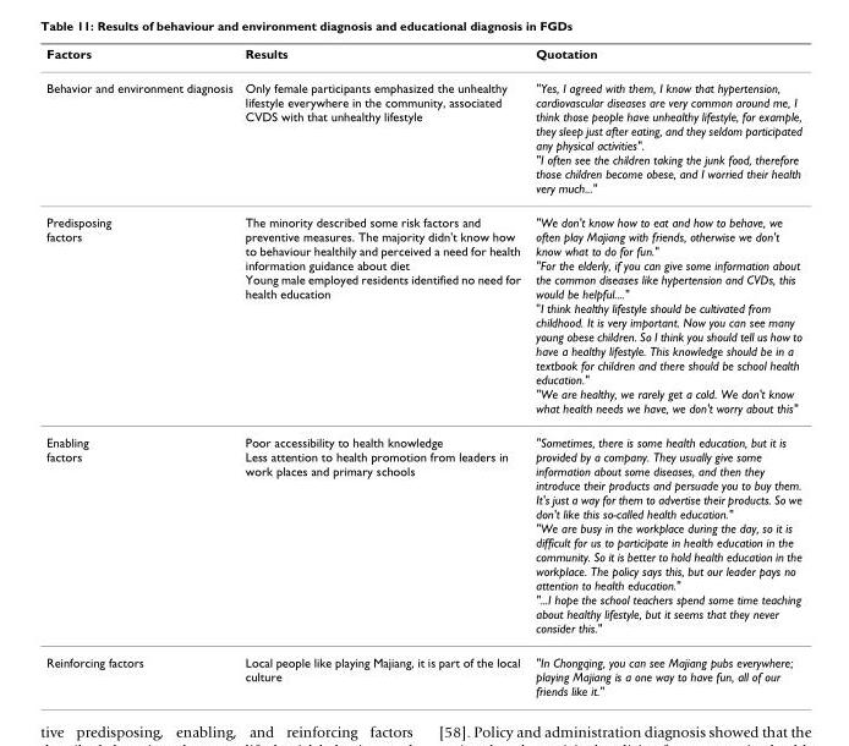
<table><thead><tr><td>Factors</td><td>Results</td><td>Quotation</td></tr></thead><tbody><tr><td>Behavior and environment diagnosis</td><td>Only female participants emphasized the unhealthy lifestyle everywhere in the community, associated CVDS with that unhealthy lifestyle</td><td>&quot;Yes, I agreed with them, I know that hypertension, cardiovascular diseases are very common around me, I think those people have unhealthy lifestyle, for example, they sleep just after eating, and they seldom participated any physical activities&quot;. &quot;I often see the children taking the junk food, therefore those children become obese, and I worried their health very much...&quot;</td></tr><tr><td>Predisposing factors</td><td>The minority described some risk factors and preventive measures. The majority didn&#x27;t know how to behaviour healthily and perceived a need for health information guidance about diet Young male employed residents identified no need for health education</td><td>&quot;We don&#x27;t know how to eat and how to behave, we often play Majiang with friends, otherwise we don&#x27;t know what to do for fun.&quot; &quot;For the elderly, if you can give some information about the common diseases like hypertension and CVDs, this would be helpful....&quot; &quot;I think healthy lifestyle should be cultivated from childhood. It is very important. Now you can see many young obese children. So I think you should tell us how to have a healthy lifestyle. This knowledge should be in a textbook for children and there should be school health education.&quot; &quot;We are healthy, we rarely get a cold. We don&#x27;t know what health needs we have, we don&#x27;t worry about this&quot;</td></tr><tr><td>Enabling factors</td><td>Poor accessibility to health knowledge Less attention to health promotion from leaders in work places and primary schools</td><td>&quot;Sometimes, there is some health education, but it is provided by a company. They usually give some information about some diseases, and then they introduce their products and persuade you to buy them. It&#x27;s just a way for them to advertise their products. So we don&#x27;t like this so-called health education.&quot; &quot;We are busy in the workplace during the day, so it is difficult for us to participate in health education in the community. So it is better to hold health education in the workplace. The policy says this, but our leader pays no attention to health education.&quot; &quot;...I hope the school teachers spend some time teaching about healthy lifestyle, but it seems that they never consider this.&quot;</td></tr><tr><td>Reinforcing factors</td><td>Local people like playing Majiang, it is part of the local culture</td><td>&quot;In Chongqing, you can see Majiang pubs everywhere; playing Majiang is a one way to have fun, all of our friends like it.&quot;</td></tr></tbody></table>